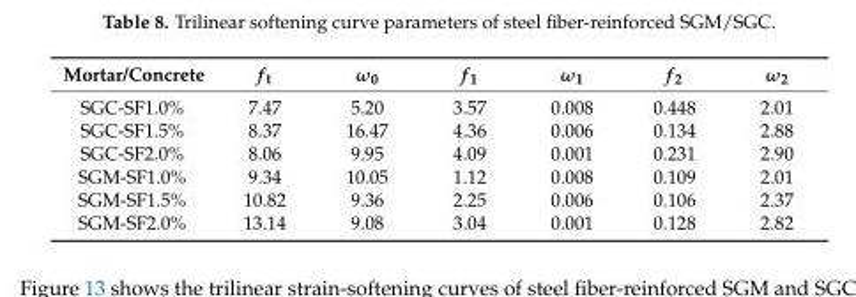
<table><thead><tr><td>Mortar/Concrete</td><td>f<sub>t</sub></td><td>ω<sub>0</sub></td><td>f<sub>1</sub></td><td>ω<sub>1</sub></td><td>f<sub>2</sub></td><td>ω<sub>2</sub></td></tr></thead><tbody><tr><td>SGC-SF1.0%</td><td>7.47</td><td>5.20</td><td>3.57</td><td>0.008</td><td>0.448</td><td>2.01</td></tr><tr><td>SGC-SF1.5%</td><td>8.37</td><td>16.47</td><td>4.36</td><td>0.006</td><td>0.134</td><td>2.88</td></tr><tr><td>SGC-SF2.0%</td><td>8.06</td><td>9.95</td><td>4.09</td><td>0.001</td><td>0.231</td><td>2.90</td></tr><tr><td>SGM-SF1.0%</td><td>9.34</td><td>10.05</td><td>1.12</td><td>0.008</td><td>0.109</td><td>2.01</td></tr><tr><td>SGM-SF1.5%</td><td>10.82</td><td>9.36</td><td>2.25</td><td>0.006</td><td>0.106</td><td>2.37</td></tr><tr><td>SGM-SF2.0%</td><td>13.14</td><td>9.08</td><td>3.04</td><td>0.001</td><td>0.128</td><td>2.82</td></tr></tbody></table>